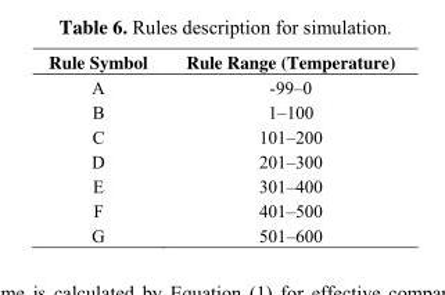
<table><thead><tr><td>Rule Symbol</td><td>Rule Range (Temperature)</td></tr></thead><tbody><tr><td>A</td><td>-99–0</td></tr><tr><td>B</td><td>1–100</td></tr><tr><td>C</td><td>101–200</td></tr><tr><td>D</td><td>201–300</td></tr><tr><td>E</td><td>301–400</td></tr><tr><td>F</td><td>401–500</td></tr><tr><td>G</td><td>501–600</td></tr></tbody></table>